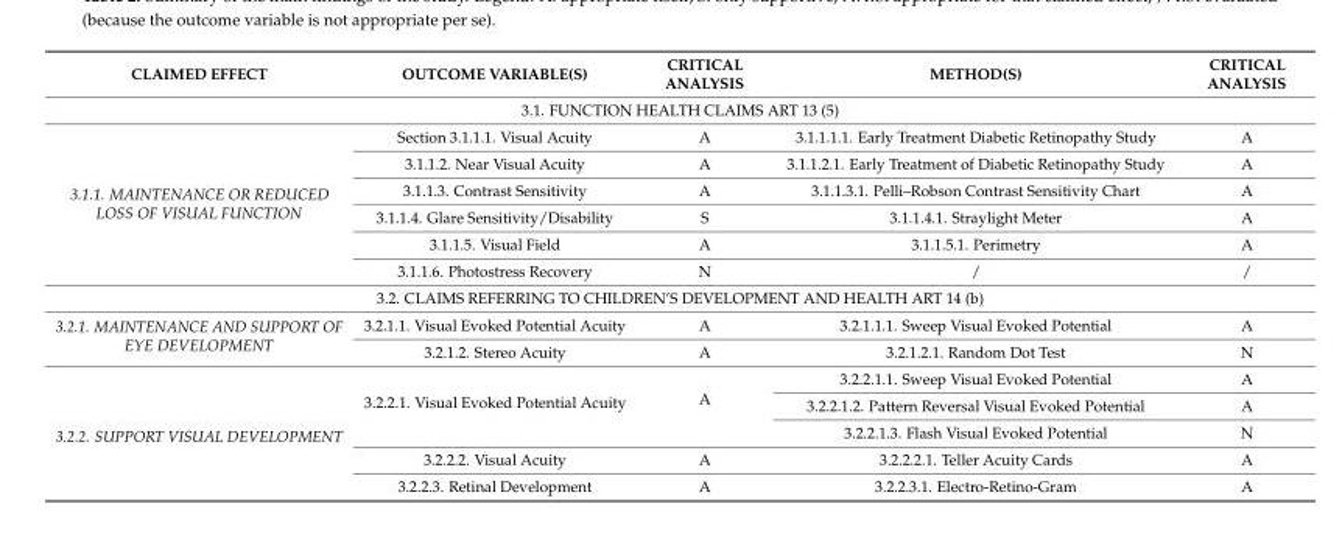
<table><thead><tr><td>CLAIMED EFFECT</td><td>OUTCOME VARIABLE(S)</td><td>CRITICAL ANALYSIS</td><td>METHOD(S)</td><td>CRITICAL ANALYSIS</td></tr></thead><tbody><tr><td colspan="5">3.1. FUNCTION HEALTH CLAIMS ART 13 (5)</td></tr><tr><td rowspan="6">3.1.1. MAINTENANCE OR REDUCED LOSS OF VISUAL FUNCTION</td><td>Section 3.1.1.1. Visual Acuity</td><td>A</td><td>3.1.1.1.1. Early Treatment Diabetic Retinopathy Study</td><td>A</td></tr><tr><td>3.1.1.2. Near Visual Acuity</td><td>A</td><td>3.1.1.2.1. Early Treatment of Diabetic Retinopathy Study</td><td>A</td></tr><tr><td>3.1.1.3. Contrast Sensitivity</td><td>A</td><td>3.1.1.3.1. Pelli–Robson Contrast Sensitivity Chart</td><td>A</td></tr><tr><td>3.1.1.4. Glare Sensitivity/Disability</td><td>S</td><td>3.1.1.4.1. Straylight Meter</td><td>A</td></tr><tr><td>3.1.1.5. Visual Field</td><td>A</td><td>3.1.1.5.1. Perimetry</td><td>A</td></tr><tr><td>3.1.1.6. Photostress Recovery</td><td>N</td><td>/</td><td>/</td></tr><tr><td colspan="5">3.2. CLAIMS REFERRING TO CHILDREN’S DEVELOPMENT AND HEALTH ART 14 (b)</td></tr><tr><td rowspan="2">3.2.1. MAINTENANCE AND SUPPORT OF EYE DEVELOPMENT</td><td>3.2.1.1. Visual Evoked Potential Acuity</td><td>A</td><td>3.2.1.1.1. Sweep Visual Evoked Potential</td><td>A</td></tr><tr><td>3.2.1.2. Stereo Acuity</td><td>A</td><td>3.2.1.2.1. Random Dot Test</td><td>N</td></tr><tr><td rowspan="5">3.2.2. SUPPORT VISUAL DEVELOPMENT</td><td rowspan="3">3.2.2.1. Visual Evoked Potential Acuity</td><td rowspan="3">A</td><td>3.2.2.1.1. Sweep Visual Evoked Potential</td><td>A</td></tr><tr><td>3.2.2.1.2. Pattern Reversal Visual Evoked Potential</td><td>A</td></tr><tr><td>3.2.2.1.3. Flash Visual Evoked Potential</td><td>N</td></tr><tr><td>3.2.2.2. Visual Acuity</td><td>A</td><td>3.2.2.2.1. Teller Acuity Cards</td><td>A</td></tr><tr><td>3.2.2.3. Retinal Development</td><td>A</td><td>3.2.2.3.1. Electro-Retino-Gram</td><td>A</td></tr></tbody></table>